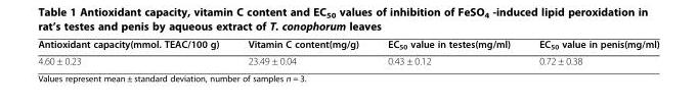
<table><thead><tr><td>Antioxidant capacity(mmol. TEAC/100 g)</td><td>Vitamin C content(mg/g)</td><td>EC<sub>50</sub> value in testes(mg/ml)</td><td>EC<sub>50</sub> value in penis(mg/ml)</td></tr></thead><tbody><tr><td>4.60 ± 0.23</td><td>23.49 ± 0.04</td><td>0.43 ± 0.12</td><td>0.72 ± 0.38</td></tr></tbody></table>